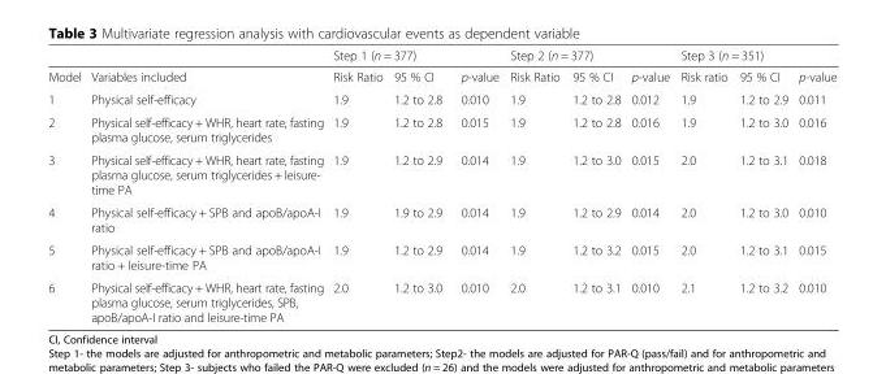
<table><thead><tr><td rowspan="2">Model</td><td rowspan="2">Variables included</td><td colspan="3">Step 1 (n = 377)</td><td colspan="3">Step 2 (n = 377)</td><td colspan="3">Step 3 (n = 351)</td></tr><tr><td>Risk Ratio</td><td>95 % CI</td><td>p-value</td><td>Risk Ratio</td><td>95 % CI</td><td>p-value</td><td>Risk ratio</td><td>95 % CI</td><td>p-value</td></tr></thead><tbody><tr><td>1</td><td>Physical self-efficacy</td><td>1.9</td><td>1.2 to 2.8</td><td>0.010</td><td>1.9</td><td>1.2 to 2.8</td><td>0.012</td><td>1.9</td><td>1.2 to 2.9</td><td>0.011</td></tr><tr><td>2</td><td>Physical self-efficacy + WHR, heart rate, fasting plasma glucose, serum triglycerides</td><td>1.9</td><td>1.2 to 2.8</td><td>0.015</td><td>1.9</td><td>1.2 to 2.8</td><td>0.016</td><td>1.9</td><td>1.2 to 3.0</td><td>0.016</td></tr><tr><td>3</td><td>Physical self-efficacy + WHR, heart rate, fasting plasma glucose, serum triglycerides + leisure- time PA</td><td>1.9</td><td>1.2 to 2.9</td><td>0.014</td><td>1.9</td><td>1.2 to 3.0</td><td>0.015</td><td>2.0</td><td>1.2 to 3.1</td><td>0.018</td></tr><tr><td>4</td><td>Physical self-efficacy + SPB and apoB/apoA-I ratio</td><td>1.9</td><td>1.9 to 2.9</td><td>0.014</td><td>1.9</td><td>1.2 to 2.9</td><td>0.014</td><td>2.0</td><td>1.2 to 3.0</td><td>0.010</td></tr><tr><td>5</td><td>Physical self-efficacy + SPB and apoB/apoA-I ratio + leisure-time PA</td><td>1.9</td><td>1.2 to 2.9</td><td>0.014</td><td>1.9</td><td>1.2 to 3.2</td><td>0.015</td><td>2.0</td><td>1.2 to 3.1</td><td>0.015</td></tr><tr><td>6</td><td>Physical self-efficacy + WHR, heart rate, fasting plasma glucose, serum triglycerides, SPB, apoB/apoA-I ratio and leisure-time PA</td><td>2.0</td><td>1.2 to 3.0</td><td>0.010</td><td>2.0</td><td>1.2 to 3.1</td><td>0.010</td><td>2.1</td><td>1.2 to 3.2</td><td>0.010</td></tr></tbody></table>